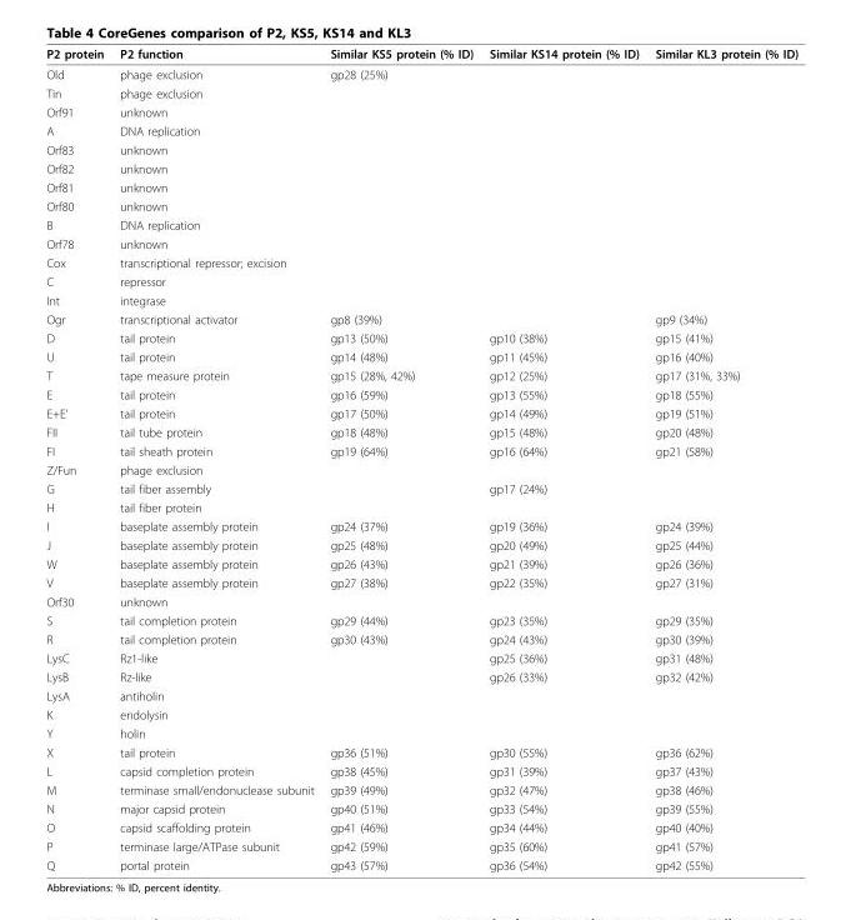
<table><thead><tr><td>P2 protein</td><td>P2 function</td><td>Similar KS5 protein (% ID)</td><td>Similar KS14 protein (% ID)</td><td>Similar KL3 protein (% ID)</td></tr></thead><tbody><tr><td>Old</td><td>phage exclusion</td><td>gp28 (25%)</td><td></td><td></td></tr><tr><td>Tin</td><td>phage exclusion</td><td></td><td></td><td></td></tr><tr><td>Orf91</td><td>unknown</td><td></td><td></td><td></td></tr><tr><td>A</td><td>DNA replication</td><td></td><td></td><td></td></tr><tr><td>Orf83</td><td>unknown</td><td></td><td></td><td></td></tr><tr><td>Orf82</td><td>unknown</td><td></td><td></td><td></td></tr><tr><td>Orf81</td><td>unknown</td><td></td><td></td><td></td></tr><tr><td>Orf80</td><td>unknown</td><td></td><td></td><td></td></tr><tr><td>B</td><td>DNA replication</td><td></td><td></td><td></td></tr><tr><td>Orf78</td><td>unknown</td><td></td><td></td><td></td></tr><tr><td>Cox</td><td>transcriptional repressor; excision</td><td></td><td></td><td></td></tr><tr><td>C</td><td>repressor</td><td></td><td></td><td></td></tr><tr><td>Int</td><td>integrase</td><td></td><td></td><td></td></tr><tr><td>Ogr</td><td>transcriptional activator</td><td>gp8 (39%)</td><td></td><td>gp9 (34%)</td></tr><tr><td>D</td><td>tail protein</td><td>gp13 (50%)</td><td>gp10 (38%)</td><td>gp15 (41%)</td></tr><tr><td>U</td><td>tail protein</td><td>gp14 (48%)</td><td>gp11 (45%)</td><td>gp16 (40%)</td></tr><tr><td>T</td><td>tape measure protein</td><td>gp15 (28%, 42%)</td><td>gp12 (25%)</td><td>gp17 (31%, 33%)</td></tr><tr><td>E</td><td>tail protein</td><td>gp16 (59%)</td><td>gp13 (55%)</td><td>gp18 (55%)</td></tr><tr><td>E+E’</td><td>tail protein</td><td>gp17 (50%)</td><td>gp14 (49%)</td><td>gp19 (51%)</td></tr><tr><td>FII</td><td>tail tube protein</td><td>gp18 (48%)</td><td>gp15 (48%)</td><td>gp20 (48%)</td></tr><tr><td>FI</td><td>tail sheath protein</td><td>gp19 (64%)</td><td>gp16 (64%)</td><td>gp21 (58%)</td></tr><tr><td>Z/Fun</td><td>phage exclusion</td><td></td><td></td><td></td></tr><tr><td>G</td><td>tail fiber assembly</td><td></td><td>gp17 (24%)</td><td></td></tr><tr><td>H</td><td>tail fiber protein</td><td></td><td></td><td></td></tr><tr><td>I</td><td>baseplate assembly protein</td><td>gp24 (37%)</td><td>gp19 (36%)</td><td>gp24 (39%)</td></tr><tr><td>J</td><td>baseplate assembly protein</td><td>gp25 (48%)</td><td>gp20 (49%)</td><td>gp25 (44%)</td></tr><tr><td>W</td><td>baseplate assembly protein</td><td>gp26 (43%)</td><td>gp21 (39%)</td><td>gp26 (36%)</td></tr><tr><td>V</td><td>baseplate assembly protein</td><td>gp27 (38%)</td><td>gp22 (35%)</td><td>gp27 (31%)</td></tr><tr><td>Orf30</td><td>unknown</td><td></td><td></td><td></td></tr><tr><td>S</td><td>tail completion protein</td><td>gp29 (44%)</td><td>gp23 (35%)</td><td>gp29 (35%)</td></tr><tr><td>R</td><td>tail completion protein</td><td>gp30 (43%)</td><td>gp24 (43%)</td><td>gp30 (39%)</td></tr><tr><td>LysC</td><td>Rz1-like</td><td></td><td>gp25 (36%)</td><td>gp31 (48%)</td></tr><tr><td>LysB</td><td>Rz-like</td><td></td><td>gp26 (33%)</td><td>gp32 (42%)</td></tr><tr><td>LysA</td><td>antiholin</td><td></td><td></td><td></td></tr><tr><td>K</td><td>endolysin</td><td></td><td></td><td></td></tr><tr><td>Y</td><td>holin</td><td></td><td></td><td></td></tr><tr><td>X</td><td>tail protein</td><td>gp36 (51%)</td><td>gp30 (55%)</td><td>gp36 (62%)</td></tr><tr><td>L</td><td>capsid completion protein</td><td>gp38 (45%)</td><td>gp31 (39%)</td><td>gp37 (43%)</td></tr><tr><td>M</td><td>terminase small/endonuclease subunit</td><td>gp39 (49%)</td><td>gp32 (47%)</td><td>gp38 (46%)</td></tr><tr><td>N</td><td>major capsid protein</td><td>gp40 (51%)</td><td>gp33 (54%)</td><td>gp39 (55%)</td></tr><tr><td>O</td><td>capsid scaffolding protein</td><td>gp41 (46%)</td><td>gp34 (44%)</td><td>gp40 (40%)</td></tr><tr><td>P</td><td>terminase large/ATPase subunit</td><td>gp42 (59%)</td><td>gp35 (60%)</td><td>gp41 (57%)</td></tr><tr><td>Q</td><td>portal protein</td><td>gp43 (57%)</td><td>gp36 (54%)</td><td>gp42 (55%)</td></tr></tbody></table>